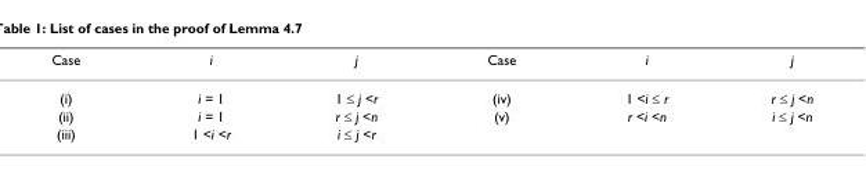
<table><thead><tr><td>Case</td><td>i</td><td>j</td><td>Case</td><td>i</td><td>j</td></tr></thead><tbody><tr><td>(i)</td><td>i = 1</td><td>1 ≤ j &lt;r</td><td>(iv)</td><td>1 &lt;i ≤ r</td><td>r ≤ j &lt;n</td></tr><tr><td>(ii)</td><td>i = 1</td><td>r ≤ j &lt;n</td><td>(v)</td><td>r &lt;i &lt;n</td><td>i ≤ j &lt;n</td></tr><tr><td>(iii)</td><td>1 &lt;i &lt;r</td><td>i ≤ j &lt;r</td><td></td><td></td><td></td></tr></tbody></table>